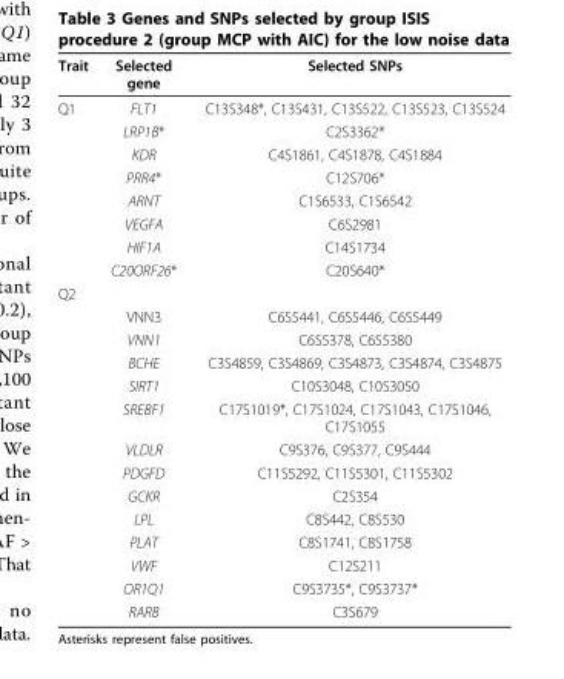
<table><thead><tr><td>Trait</td><td>Selected gene</td><td>Selected SNPs</td></tr></thead><tbody><tr><td rowspan="8">Q1</td><td>FLT1</td><td>C13S348*, C13S431, C13S522, C13S523, C13S524</td></tr><tr><td>LRP1B*</td><td>C2S3362*</td></tr><tr><td>KDR</td><td>C4S1861, C4S1878, C4S1884</td></tr><tr><td>PRR4*</td><td>C12S706*</td></tr><tr><td>ARNT</td><td>C1S6533, C1S6542</td></tr><tr><td>VEGFA</td><td>C6S2981</td></tr><tr><td>HIF1A</td><td>C14S1734</td></tr><tr><td>C20ORF26*</td><td>C20S640*</td></tr><tr><td colspan="3">Q2</td></tr><tr><td></td><td>VNN3</td><td>C6S5441, C6S5446, C6S5449</td></tr><tr><td></td><td>VNN1</td><td>C6S5378, C6S5380</td></tr><tr><td></td><td>BCHE</td><td>C3S4859, C3S4869, C3S4873, C3S4874, C3S4875</td></tr><tr><td></td><td>SIRT1</td><td>C10S3048, C10S3050</td></tr><tr><td></td><td>SREBF1</td><td>C17S1019*, C17S1024, C17S1043, C17S1046, C17S1055</td></tr><tr><td></td><td>VLDLR</td><td>C9S376, C9S377, C9S444</td></tr><tr><td></td><td>PDGFD</td><td>C11S5292, C11S5301, C11S5302</td></tr><tr><td></td><td>GCKR</td><td>C2S354</td></tr><tr><td></td><td>LPL</td><td>C8S442, C8S530</td></tr><tr><td></td><td>PLAT</td><td>C8S1741, C8S1758</td></tr><tr><td></td><td>VWF</td><td>C12S211</td></tr><tr><td></td><td>OR1Q1</td><td>C9S3735*, C9S3737*</td></tr><tr><td></td><td>RARB</td><td>C3S679</td></tr></tbody></table>